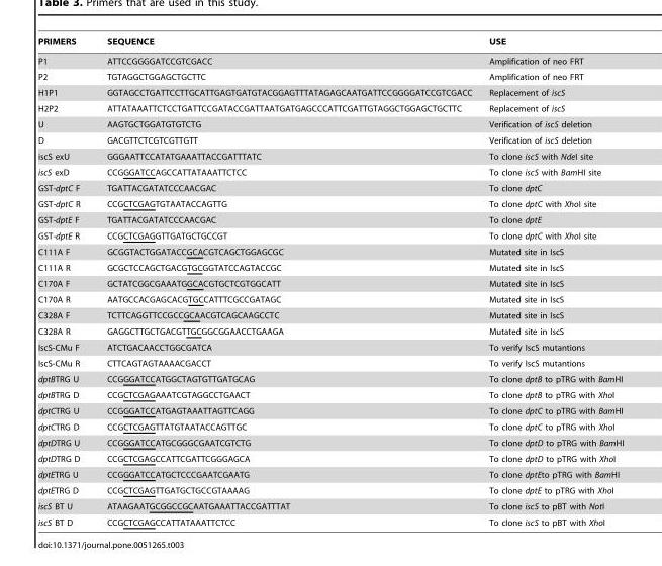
<table><thead><tr><td>PRIMERS</td><td>SEQUENCE</td><td>USE</td></tr></thead><tbody><tr><td>P1</td><td>ATTCCGGGGATCCGTCGACC</td><td>Amplification of neo FRT</td></tr><tr><td>P2</td><td>TGTAGGCTGGAGCTGCTTC</td><td>Amplification of neo FRT</td></tr><tr><td>H1P1</td><td>GGTAGCCTGATTCCTTGCATTGAGTGATGTACGGAGTTTATAGAGCAATGATTCCGGGGATCCGTCGACC</td><td>Replacement of iscS</td></tr><tr><td>H2P2</td><td>ATTATAAATTCTCCTGATTCCGATACCGATTAATGATGAGCCCATTCGATTGTAGGCTGGAGCTGCTTC</td><td>Replacement of iscS</td></tr><tr><td>U</td><td>AAGTGCTGGATGTGTCTG</td><td>Verification of iscS deletion</td></tr><tr><td>D</td><td>GACGTTCTCGTCGTTGTT</td><td>Verification of iscS deletion</td></tr><tr><td>iscS exU</td><td>GGGAATTCCATATGAAATTACCGATTTATC</td><td>To clone iscS with NdeI site</td></tr><tr><td>iscS exD</td><td>CCGGGATCCAGCCATTATAAATTCTCC</td><td>To clone iscS with BamHI site</td></tr><tr><td>GST-dptC F</td><td>TGATTACGATATCCCAACGAC</td><td>To clone dptC</td></tr><tr><td>GST-dptC R</td><td>CCGCTCGAGTGTAATACCAGTTG</td><td>To clone dptC with XhoI site</td></tr><tr><td>GST-dptE F</td><td>TGATTACGATATCCCAACGAC</td><td>To clone dptE</td></tr><tr><td>GST-dptE R</td><td>CCGCTCGAGGTTGATGCTGCCGT</td><td>To clone dptC with XhoI site</td></tr><tr><td>C111A F</td><td>GCGGTACTGGATACCGCACGTCAGCTGGAGCGC</td><td>Mutated site in IscS</td></tr><tr><td>C111A R</td><td>GCGCTCCAGCTGACGTGCGGTATCCAGTACCGC</td><td>Mutated site in IscS</td></tr><tr><td>C170A F</td><td>GCTATCGGCGAAATGGCACGTGCTCGTGGCATT</td><td>Mutated site in IscS</td></tr><tr><td>C170A R</td><td>AATGCCACGAGCACGTGCCATTTCGCCGATAGC</td><td>Mutated site in IscS</td></tr><tr><td>C328A F</td><td>TCTTCAGGTTCCGCCGCAACGTCAGCAAGCCTC</td><td>Mutated site in IscS</td></tr><tr><td>C328A R</td><td>GAGGCTTGCTGACGTTGCGGCGGAACCTGAAGA</td><td>Mutated site in IscS</td></tr><tr><td>IscS-CMu F</td><td>ATCTGACAACCTGGCGATCA</td><td>To verify IscS mutantions</td></tr><tr><td>IscS-CMu R</td><td>CTTCAGTAGTAAAACGACCT</td><td>To verify IscS mutantions</td></tr><tr><td>dptBTRG U</td><td>CCGGGATCCATGGCTAGTGTTGATGCAG</td><td>To clone dptB to pTRG with BamHI</td></tr><tr><td>dptBTRG D</td><td>CCGCTCGAGAAATCGTAGGCCTGAACT</td><td>To clone dptB to pTRG with XhoI</td></tr><tr><td>dptCTRG U</td><td>CCGGGATCCATGAGTAAATTAGTTCAGG</td><td>To clone dptC to pTRG with BamHI</td></tr><tr><td>dptCTRG D</td><td>CCGCTCGAGTTATGTAATACCAGTTGC</td><td>To clone dptC to pTRG with XhoI</td></tr><tr><td>dptDTRG U</td><td>CCGGGATCCATGCGGGCGAATCGTCTG</td><td>To clone dptD to pTRG with BamHI</td></tr><tr><td>dptDTRG D</td><td>CCGCTCGAGCCATTCGATTCGGGAGCA</td><td>To clone dptD to pTRG with XhoI</td></tr><tr><td>dptETRG U</td><td>CCGGGATCCATGCTCCCGAATCGAATG</td><td>To clone dptEto pTRG with BamHI</td></tr><tr><td>dptETRG D</td><td>CCGCTCGAGTTGATGCTGCCGTAAAAG</td><td>To clone dptE to pTRG with XhoI</td></tr><tr><td>iscS BT U</td><td>ATAAGAATGCGGCCGCAATGAAATTACCGATTTAT</td><td>To clone iscS to pBT with NotI</td></tr><tr><td>iscS BT D</td><td>CCGCTCGAGCCATTATAAATTCTCC</td><td>To clone iscS to pBT with XhoI</td></tr></tbody></table>